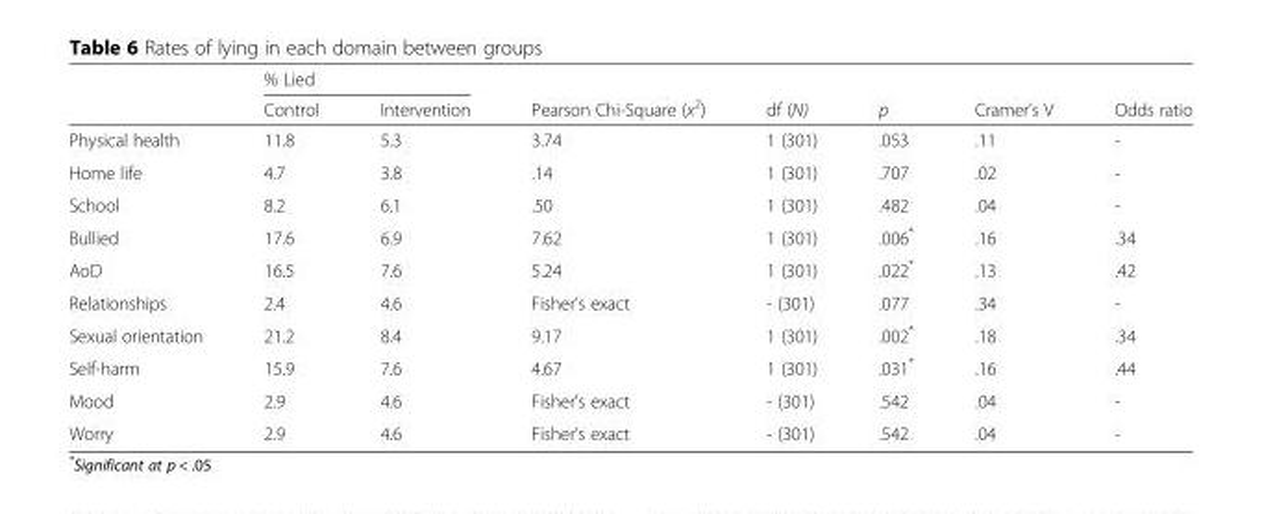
<table><thead><tr><td rowspan="2"></td><td colspan="2">% Lied</td><td rowspan="2">Pearson Chi-Square (x<sup>2</sup>)</td><td rowspan="2">df (N)</td><td rowspan="2">p</td><td rowspan="2">Cramer’s V</td><td rowspan="2">Odds ratio</td></tr><tr><td>Control</td><td>Intervention</td></tr></thead><tbody><tr><td>Physical health</td><td>11.8</td><td>5.3</td><td>3.74</td><td>1 (301)</td><td>.053</td><td>.11</td><td>-</td></tr><tr><td>Home life</td><td>4.7</td><td>3.8</td><td>.14</td><td>1 (301)</td><td>.707</td><td>.02</td><td>-</td></tr><tr><td>School</td><td>8.2</td><td>6.1</td><td>.50</td><td>1 (301)</td><td>.482</td><td>.04</td><td>-</td></tr><tr><td>Bullied</td><td>17.6</td><td>6.9</td><td>7.62</td><td>1 (301)</td><td>.006*</td><td>.16</td><td>.34</td></tr><tr><td>AoD</td><td>16.5</td><td>7.6</td><td>5.24</td><td>1 (301)</td><td>.022*</td><td>.13</td><td>.42</td></tr><tr><td>Relationships</td><td>2.4</td><td>4.6</td><td>Fisher’s exact</td><td>- (301)</td><td>.077</td><td>.34</td><td>-</td></tr><tr><td>Sexual orientation</td><td>21.2</td><td>8.4</td><td>9.17</td><td>1 (301)</td><td>.002*</td><td>.18</td><td>.34</td></tr><tr><td>Self-harm</td><td>15.9</td><td>7.6</td><td>4.67</td><td>1 (301)</td><td>.031*</td><td>.16</td><td>.44</td></tr><tr><td>Mood</td><td>2.9</td><td>4.6</td><td>Fisher’s exact</td><td>- (301)</td><td>.542</td><td>.04</td><td>-</td></tr><tr><td>Worry</td><td>2.9</td><td>4.6</td><td>Fisher’s exact</td><td>- (301)</td><td>.542</td><td>.04</td><td>-</td></tr></tbody></table>